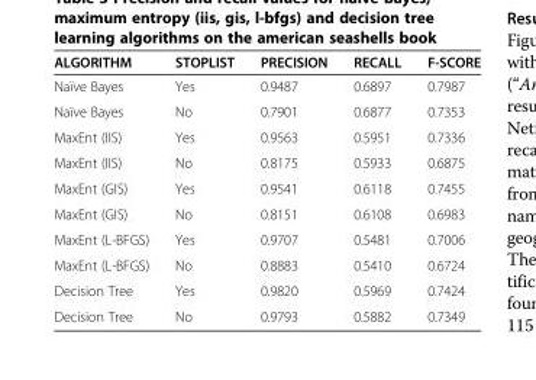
<table><thead><tr><td>ALGORITHM</td><td>STOPLIST</td><td>PRECISION</td><td>RECALL</td><td>F-SCORE</td></tr></thead><tbody><tr><td>Naïve Bayes</td><td>Yes</td><td>0.9487</td><td>0.6897</td><td>0.7987</td></tr><tr><td>Naïve Bayes</td><td>No</td><td>0.7901</td><td>0.6877</td><td>0.7353</td></tr><tr><td>MaxEnt (IIS)</td><td>Yes</td><td>0.9563</td><td>0.5951</td><td>0.7336</td></tr><tr><td>MaxEnt (IIS)</td><td>No</td><td>0.8175</td><td>0.5933</td><td>0.6875</td></tr><tr><td>MaxEnt (GIS)</td><td>Yes</td><td>0.9541</td><td>0.6118</td><td>0.7455</td></tr><tr><td>MaxEnt (GIS)</td><td>No</td><td>0.8151</td><td>0.6108</td><td>0.6983</td></tr><tr><td>MaxEnt (L-BFGS)</td><td>Yes</td><td>0.9707</td><td>0.5481</td><td>0.7006</td></tr><tr><td>MaxEnt (L-BFGS)</td><td>No</td><td>0.8883</td><td>0.5410</td><td>0.6724</td></tr><tr><td>Decision Tree</td><td>Yes</td><td>0.9820</td><td>0.5969</td><td>0.7424</td></tr><tr><td>Decision Tree</td><td>No</td><td>0.9793</td><td>0.5882</td><td>0.7349</td></tr></tbody></table>